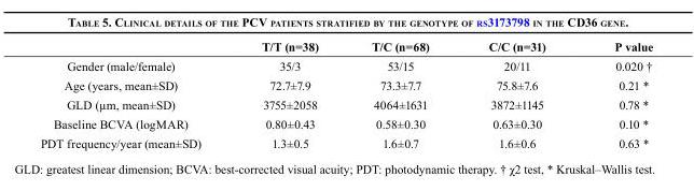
<table><thead><tr><td></td><td>T/T (n=38)</td><td>T/C (n=68)</td><td>C/C (n=31)</td><td>P value</td></tr></thead><tbody><tr><td>Gender (male/female)</td><td>35/3</td><td>53/15</td><td>20/11</td><td>0.020 †</td></tr><tr><td>Age (years, mean±SD)</td><td>72.7±7.9</td><td>73.3±7.7</td><td>75.8±7.6</td><td>0.21 *</td></tr><tr><td>GLD (μm, mean±SD)</td><td>3755±2058</td><td>4064±1631</td><td>3872±1145</td><td>0.78 *</td></tr><tr><td>Baseline BCVA (logMAR)</td><td>0.80±0.43</td><td>0.58±0.30</td><td>0.63±0.30</td><td>0.10 *</td></tr><tr><td>PDT frequency/year (mean±SD)</td><td>1.3±0.5</td><td>1.6±0.7</td><td>1.6±0.6</td><td>0.63 *</td></tr></tbody></table>